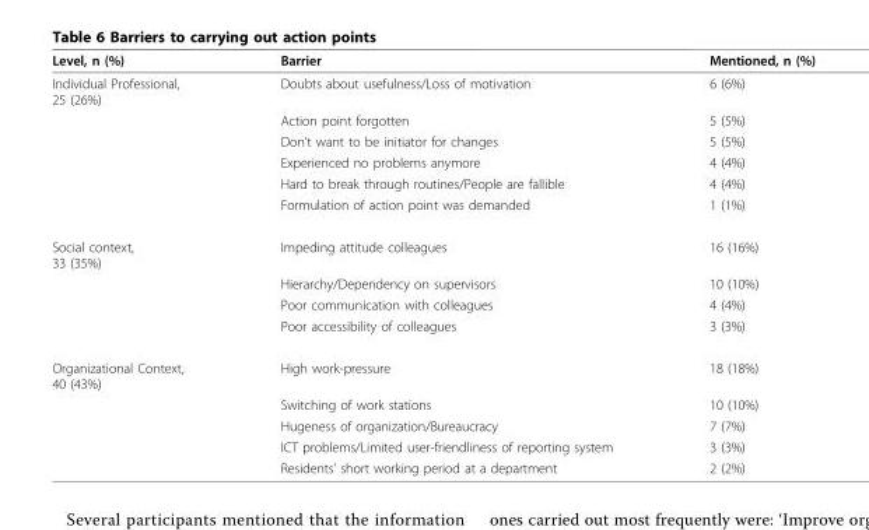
<table><thead><tr><td>Level, n (%)</td><td>Barrier</td><td>Mentioned, n (%)</td></tr></thead><tbody><tr><td rowspan="6">Individual Professional, 25 (26%)</td><td>Doubts about usefulness/Loss of motivation</td><td>6 (6%)</td></tr><tr><td>Action point forgotten</td><td>5 (5%)</td></tr><tr><td>Don’t want to be initiator for changes</td><td>5 (5%)</td></tr><tr><td>Experienced no problems anymore</td><td>4 (4%)</td></tr><tr><td>Hard to break through routines/People are fallible</td><td>4 (4%)</td></tr><tr><td>Formulation of action point was demanded</td><td>1 (1%)</td></tr><tr><td rowspan="4">Social context, 33 (35%)</td><td>Impeding attitude colleagues</td><td>16 (16%)</td></tr><tr><td>Hierarchy/Dependency on supervisors</td><td>10 (10%)</td></tr><tr><td>Poor communication with colleagues</td><td>4 (4%)</td></tr><tr><td>Poor accessibility of colleagues</td><td>3 (3%)</td></tr><tr><td rowspan="5">Organizational Context, 40 (43%)</td><td>High work-pressure</td><td>18 (18%)</td></tr><tr><td>Switching of work stations</td><td>10 (10%)</td></tr><tr><td>Hugeness of organization/Bureaucracy</td><td>7 (7%)</td></tr><tr><td>ICT problems/Limited user-friendliness of reporting system</td><td>3 (3%)</td></tr><tr><td>Residents’ short working period at a department</td><td>2 (2%)</td></tr></tbody></table>